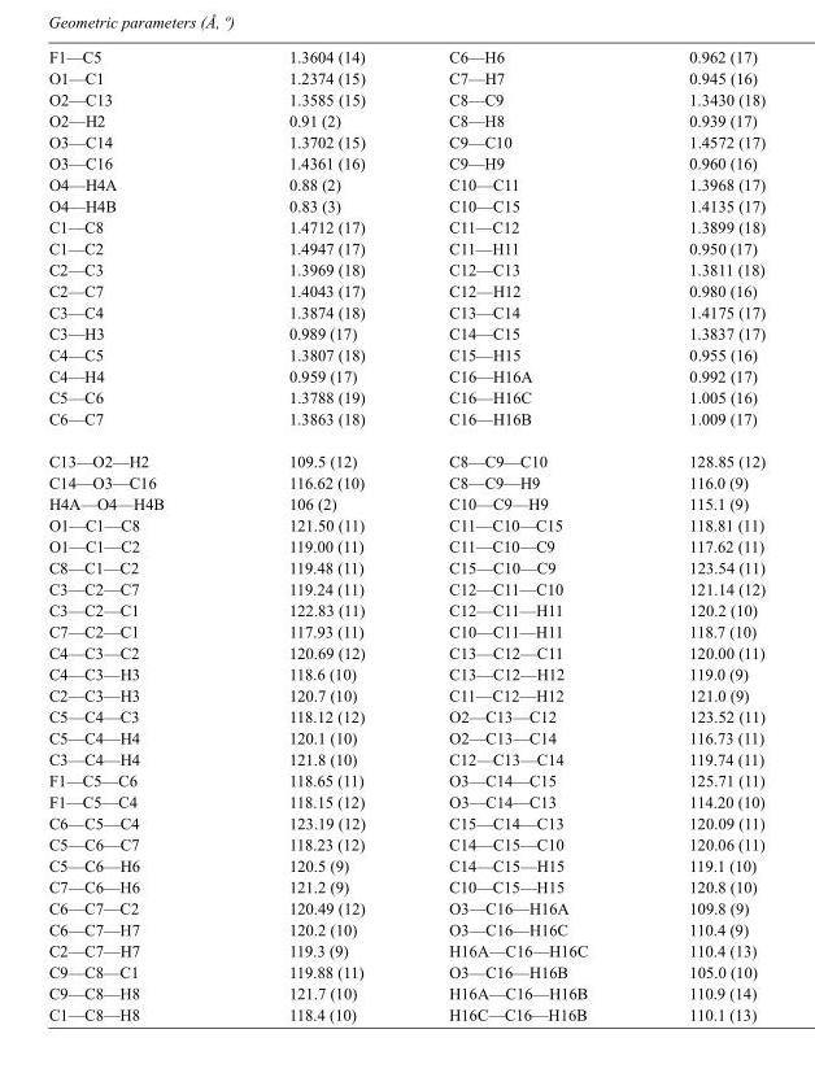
<table><tbody><tr><td>F1—C5</td><td>1.3604 (14)</td><td>C6—H6</td><td>0.962 (17)</td></tr><tr><td>O1—C1</td><td>1.2374 (15)</td><td>C7—H7</td><td>0.945 (16)</td></tr><tr><td>O2—C13</td><td>1.3585 (15)</td><td>C8—C9</td><td>1.3430 (18)</td></tr><tr><td>O2—H2</td><td>0.91 (2)</td><td>C8—H8</td><td>0.939 (17)</td></tr><tr><td>O3—C14</td><td>1.3702 (15)</td><td>C9—C10</td><td>1.4572 (17)</td></tr><tr><td>O3—C16</td><td>1.4361 (16)</td><td>C9—H9</td><td>0.960 (16)</td></tr><tr><td>O4—H4A</td><td>0.88 (2)</td><td>C10—C11</td><td>1.3968 (17)</td></tr><tr><td>O4—H4B</td><td>0.83 (3)</td><td>C10—C15</td><td>1.4135 (17)</td></tr><tr><td>C1—C8</td><td>1.4712 (17)</td><td>C11—C12</td><td>1.3899 (18)</td></tr><tr><td>C1—C2</td><td>1.4947 (17)</td><td>C11—H11</td><td>0.950 (17)</td></tr><tr><td>C2—C3</td><td>1.3969 (18)</td><td>C12—C13</td><td>1.3811 (18)</td></tr><tr><td>C2—C7</td><td>1.4043 (17)</td><td>C12—H12</td><td>0.980 (16)</td></tr><tr><td>C3—C4</td><td>1.3874 (18)</td><td>C13—C14</td><td>1.4175 (17)</td></tr><tr><td>C3—H3</td><td>0.989 (17)</td><td>C14—C15</td><td>1.3837 (17)</td></tr><tr><td>C4—C5</td><td>1.3807 (18)</td><td>C15—H15</td><td>0.955 (16)</td></tr><tr><td>C4—H4</td><td>0.959 (17)</td><td>C16—H16A</td><td>0.992 (17)</td></tr><tr><td>C5—C6</td><td>1.3788 (19)</td><td>C16—H16C</td><td>1.005 (16)</td></tr><tr><td>C6—C7</td><td>1.3863 (18)</td><td>C16—H16B</td><td>1.009 (17)</td></tr><tr><td>C13—O2—H2</td><td>109.5 (12)</td><td>C8—C9—C10</td><td>128.85 (12)</td></tr><tr><td>C14—O3—C16</td><td>116.62 (10)</td><td>C8—C9—H9</td><td>116.0 (9)</td></tr><tr><td>H4A—O4—H4B</td><td>106 (2)</td><td>C10—C9—H9</td><td>115.1 (9)</td></tr><tr><td>O1—C1—C8</td><td>121.50 (11)</td><td>C11—C10—C15</td><td>118.81 (11)</td></tr><tr><td>O1—C1—C2</td><td>119.00 (11)</td><td>C11—C10—C9</td><td>117.62 (11)</td></tr><tr><td>C8—C1—C2</td><td>119.48 (11)</td><td>C15—C10—C9</td><td>123.54 (11)</td></tr><tr><td>C3—C2—C7</td><td>119.24 (11)</td><td>C12—C11—C10</td><td>121.14 (12)</td></tr><tr><td>C3—C2—C1</td><td>122.83 (11)</td><td>C12—C11—H11</td><td>120.2 (10)</td></tr><tr><td>C7—C2—C1</td><td>117.93 (11)</td><td>C10—C11—H11</td><td>118.7 (10)</td></tr><tr><td>C4—C3—C2</td><td>120.69 (12)</td><td>C13—C12—C11</td><td>120.00 (11)</td></tr><tr><td>C4—C3—H3</td><td>118.6 (10)</td><td>C13—C12—H12</td><td>119.0 (9)</td></tr><tr><td>C2—C3—H3</td><td>120.7 (10)</td><td>C11—C12—H12</td><td>121.0 (9)</td></tr><tr><td>C5—C4—C3</td><td>118.12 (12)</td><td>O2—C13—C12</td><td>123.52 (11)</td></tr><tr><td>C5—C4—H4</td><td>120.1 (10)</td><td>O2—C13—C14</td><td>116.73 (11)</td></tr><tr><td>C3—C4—H4</td><td>121.8 (10)</td><td>C12—C13—C14</td><td>119.74 (11)</td></tr><tr><td>F1—C5—C6</td><td>118.65 (11)</td><td>O3—C14—C15</td><td>125.71 (11)</td></tr><tr><td>F1—C5—C4</td><td>118.15 (12)</td><td>O3—C14—C13</td><td>114.20 (10)</td></tr><tr><td>C6—C5—C4</td><td>123.19 (12)</td><td>C15—C14—C13</td><td>120.09 (11)</td></tr><tr><td>C5—C6—C7</td><td>118.23 (12)</td><td>C14—C15—C10</td><td>120.06 (11)</td></tr><tr><td>C5—C6—H6</td><td>120.5 (9)</td><td>C14—C15—H15</td><td>119.1 (10)</td></tr><tr><td>C7—C6—H6</td><td>121.2 (9)</td><td>C10—C15—H15</td><td>120.8 (10)</td></tr><tr><td>C6—C7—C2</td><td>120.49 (12)</td><td>O3—C16—H16A</td><td>109.8 (9)</td></tr><tr><td>C6—C7—H7</td><td>120.2 (10)</td><td>O3—C16—H16C</td><td>110.4 (9)</td></tr><tr><td>C2—C7—H7</td><td>119.3 (9)</td><td>H16A—C16—H16C</td><td>110.4 (13)</td></tr><tr><td>C9—C8—C1</td><td>119.88 (11)</td><td>O3—C16—H16B</td><td>105.0 (10)</td></tr><tr><td>C9—C8—H8</td><td>121.7 (10)</td><td>H16A—C16—H16B</td><td>110.9 (14)</td></tr><tr><td>C1—C8—H8</td><td>118.4 (10)</td><td>H16C—C16—H16B</td><td>110.1 (13)</td></tr></tbody></table>